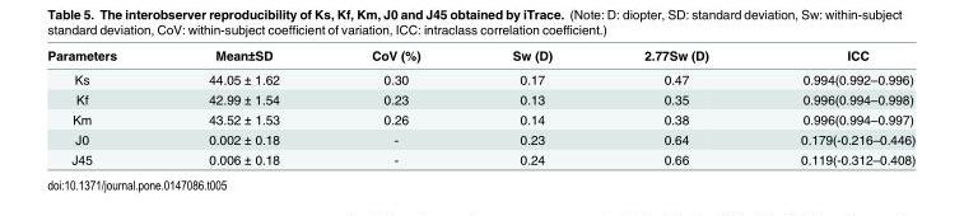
<table><thead><tr><td>Parameters</td><td>Mean±SD</td><td>CoV (%)</td><td>Sw (D)</td><td>2.77Sw (D)</td><td>ICC</td></tr></thead><tbody><tr><td>Ks</td><td>44.05 ± 1.62</td><td>0.30</td><td>0.17</td><td>0.47</td><td>0.994(0.992–0.996)</td></tr><tr><td>Kf</td><td>42.99 ± 1.54</td><td>0.23</td><td>0.13</td><td>0.35</td><td>0.996(0.994–0.998)</td></tr><tr><td>Km</td><td>43.52 ± 1.53</td><td>0.26</td><td>0.14</td><td>0.38</td><td>0.996(0.994–0.997)</td></tr><tr><td>J0</td><td>0.002 ± 0.18</td><td>-</td><td>0.23</td><td>0.64</td><td>0.179(-0.216–0.446)</td></tr><tr><td>J45</td><td>0.006 ± 0.18</td><td>-</td><td>0.24</td><td>0.66</td><td>0.119(-0.312–0.408)</td></tr></tbody></table>